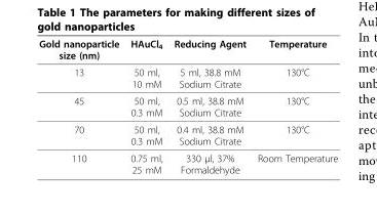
<table><thead><tr><td>Gold nanoparticle size (nm)</td><td>HAuCl<sub>4</sub></td><td>Reducing Agent</td><td>Temperature</td></tr></thead><tbody><tr><td>13</td><td>50 ml, 10 mM</td><td>5 ml, 38.8 mM Sodium Citrate</td><td>130°C</td></tr><tr><td>45</td><td>50 ml, 0.3 mM</td><td>0.5 ml, 38.8 mM Sodium Citrate</td><td>130°C</td></tr><tr><td>70</td><td>50 ml, 0.3 mM</td><td>0.4 ml, 38.8 mM Sodium Citrate</td><td>130°C</td></tr><tr><td>110</td><td>0.75 ml, 25 mM</td><td>330 μl, 37% Formaldehyde</td><td>Room Temperature</td></tr></tbody></table>